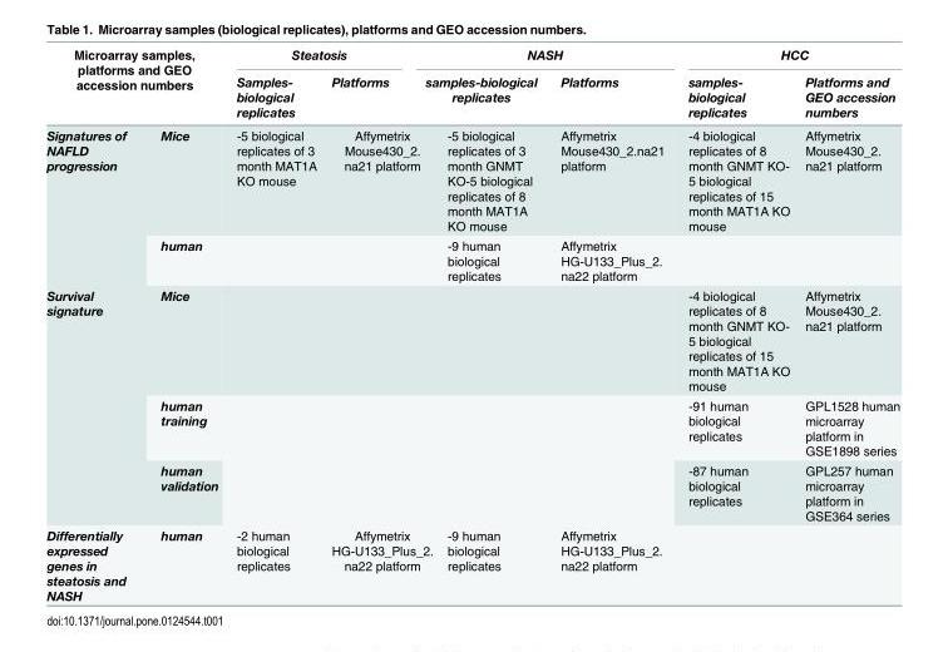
<table><thead><tr><td rowspan="2" colspan="2">Microarray samples, platforms and GEO accession numbers</td><td colspan="2">Steatosis</td><td colspan="3">NASH</td><td colspan="2">HCC</td></tr><tr><td>Samples- biological replicates</td><td>Platforms</td><td colspan="2">samples-biological replicates</td><td>Platforms</td><td>samples- biological replicates</td><td>Platforms and GEO accession numbers</td></tr></thead><tbody><tr><td rowspan="2">Signatures of NAFLD progression</td><td>Mice</td><td>-5 biological replicates of 3 month MAT1A KO mouse</td><td colspan="2">Affymetrix Mouse430_2. na21 platform</td><td>-5 biological replicates of 3 month GNMT KO-5 biological replicates of 8 month MAT1A KO mouse</td><td>Affymetrix Mouse430_2.na21 platform</td><td>-4 biological replicates of 8 month GNMT KO- 5 biological replicates of 15 month MAT1A KO mouse</td><td>Affymetrix Mouse430_2. na21 platform</td></tr><tr><td>human</td><td></td><td colspan="2"></td><td>-9 human biological replicates</td><td>Affymetrix HG-U133_Plus_2. na22 platform</td><td></td><td></td></tr><tr><td rowspan="3">Survival signature</td><td>Mice</td><td></td><td colspan="2"></td><td></td><td></td><td>-4 biological replicates of 8 month GNMT KO- 5 biological replicates of 15 month MAT1A KO mouse</td><td>Affymetrix Mouse430_2. na21 platform</td></tr><tr><td>human training</td><td rowspan="2"></td><td rowspan="2" colspan="2"></td><td rowspan="2"></td><td rowspan="2"></td><td>-91 human biological replicates</td><td>GPL1528 human microarray platform in GSE1898 series</td></tr><tr><td>human validation</td><td>-87 human biological replicates</td><td>GPL257 human microarray platform in GSE364 series</td></tr><tr><td>Differentially expressed genes in steatosis and NASH</td><td>human</td><td>-2 human biological replicates</td><td colspan="2">Affymetrix HG-U133_Plus_2. na22 platform</td><td>-9 human biological replicates</td><td>Affymetrix HG-U133_Plus_2. na22 platform</td><td colspan="2"></td></tr></tbody></table>